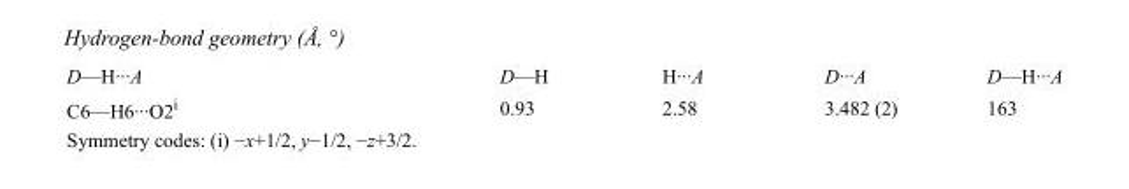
<table><tbody><tr><td>D—H···A</td><td>D—H</td><td>H···A</td><td>D···A</td><td>D—H···A</td></tr><tr><td>C6—H6···O2<sup>i</sup></td><td>0.93</td><td>2.58</td><td>3.482 (2)</td><td>163</td></tr></tbody></table>